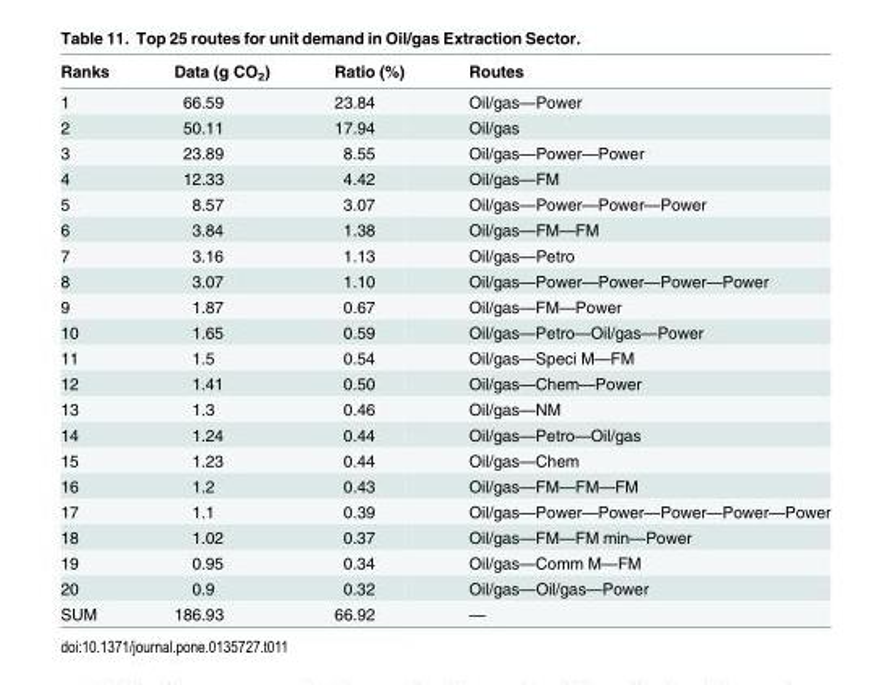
<table><thead><tr><td>Ranks</td><td>Data (g CO<sub>2</sub>)</td><td>Ratio (%)</td><td>Routes</td></tr></thead><tbody><tr><td>1</td><td>66.59</td><td>23.84</td><td>Oil/gas—Power</td></tr><tr><td>2</td><td>50.11</td><td>17.94</td><td>Oil/gas</td></tr><tr><td>3</td><td>23.89</td><td>8.55</td><td>Oil/gas—Power—Power</td></tr><tr><td>4</td><td>12.33</td><td>4.42</td><td>Oil/gas—FM</td></tr><tr><td>5</td><td>8.57</td><td>3.07</td><td>Oil/gas—Power—Power—Power</td></tr><tr><td>6</td><td>3.84</td><td>1.38</td><td>Oil/gas—FM—FM</td></tr><tr><td>7</td><td>3.16</td><td>1.13</td><td>Oil/gas—Petro</td></tr><tr><td>8</td><td>3.07</td><td>1.10</td><td>Oil/gas—Power—Power—Power—Power</td></tr><tr><td>9</td><td>1.87</td><td>0.67</td><td>Oil/gas—FM—Power</td></tr><tr><td>10</td><td>1.65</td><td>0.59</td><td>Oil/gas—Petro—Oil/gas—Power</td></tr><tr><td>11</td><td>1.5</td><td>0.54</td><td>Oil/gas—Speci M—FM</td></tr><tr><td>12</td><td>1.41</td><td>0.50</td><td>Oil/gas—Chem—Power</td></tr><tr><td>13</td><td>1.3</td><td>0.46</td><td>Oil/gas—NM</td></tr><tr><td>14</td><td>1.24</td><td>0.44</td><td>Oil/gas—Petro—Oil/gas</td></tr><tr><td>15</td><td>1.23</td><td>0.44</td><td>Oil/gas—Chem</td></tr><tr><td>16</td><td>1.2</td><td>0.43</td><td>Oil/gas—FM—FM—FM</td></tr><tr><td>17</td><td>1.1</td><td>0.39</td><td>Oil/gas—Power—Power—Power—Power—Power</td></tr><tr><td>18</td><td>1.02</td><td>0.37</td><td>Oil/gas—FM—FM min—Power</td></tr><tr><td>19</td><td>0.95</td><td>0.34</td><td>Oil/gas—Comm M—FM</td></tr><tr><td>20</td><td>0.9</td><td>0.32</td><td>Oil/gas—Oil/gas—Power</td></tr><tr><td>SUM</td><td>186.93</td><td>66.92</td><td>—</td></tr></tbody></table>